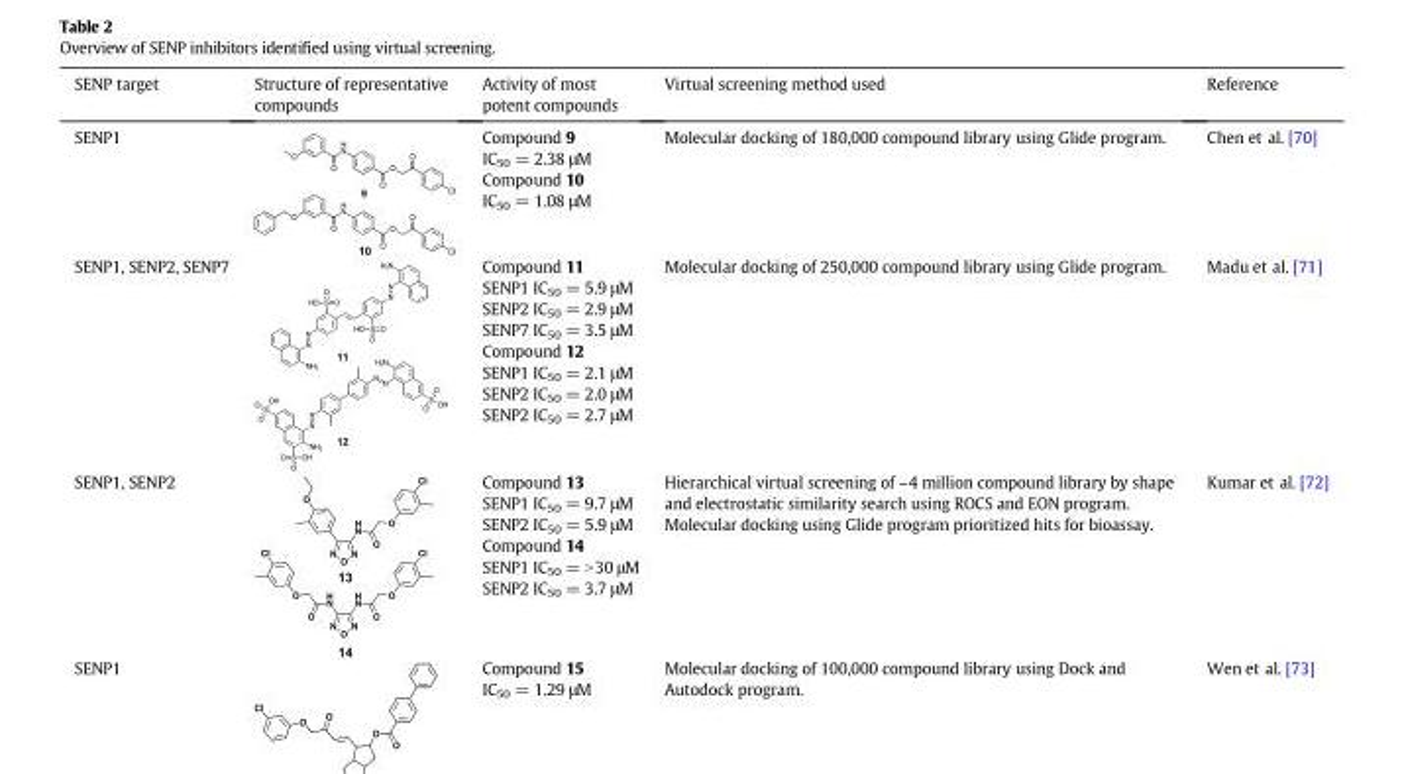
<table><thead><tr><td>SENP target</td><td>Structure of representative compounds</td><td>Activity of most potent compounds</td><td>Virtual screening method used</td><td>Reference</td></tr></thead><tbody><tr><td>SENP1</td><td></td><td>Compound 9 IC<sub>50</sub> = 2.38 μM Compound 10 IC<sub>50</sub> = 1.08 μM</td><td>Molecular docking of 180,000 compound library using Glide program.</td><td>Chen et al. [70]</td></tr><tr><td>SENP1, SENP2, SENP7</td><td></td><td>Compound 11 SENP1 IC<sub>50</sub> = 5.9 μM SENP2 IC<sub>50</sub> = 2.9 μM SENP7 IC<sub>50</sub> = 3.5 μM Compound 12 SENP1 IC<sub>50</sub> = 2.1 μM SENP2 IC<sub>50</sub> = 2.0 μM SENP2 IC<sub>50</sub> = 2.7 μM</td><td>Molecular docking of 250,000 compound library using Glide program.</td><td>Madu et al. [71]</td></tr><tr><td>SENP1, SENP2</td><td></td><td>Compound 13 SENP1 IC<sub>50</sub> = 9.7 μM SENP2 IC<sub>50</sub> = 5.9 μM Compound 14 SENP1 IC<sub>50</sub> = &gt;30 μM SENP2 IC<sub>50</sub> = 3.7 μM</td><td>Hierarchical virtual screening of ~4 million compound library by shape and electrostatic similarity search using ROCS and EON program. Molecular docking using Glide program prioritized hits for bioassay.</td><td>Kumar et al. [72]</td></tr><tr><td>SENP1</td><td></td><td>Compound 15 IC<sub>50</sub> = 1.29 μM</td><td>Molecular docking of 100,000 compound library using Dock and Autodock program.</td><td>Wen et al. [73]</td></tr></tbody></table>